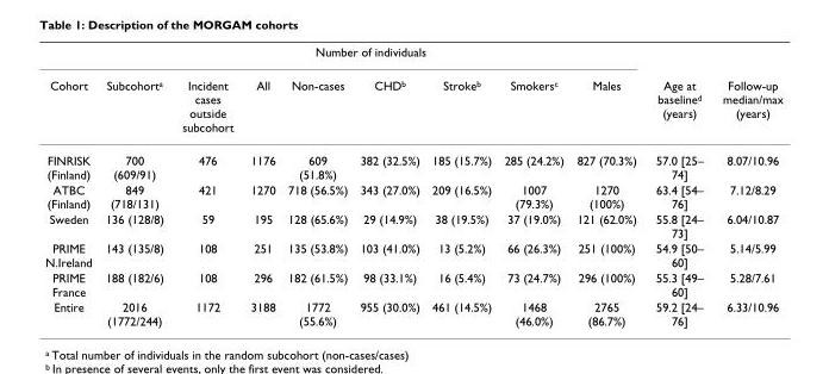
<table><thead><tr><td rowspan="2">Cohort</td><td colspan="8">Number of individuals</td><td rowspan="2">Age at baseline<sup>d</sup> (years)</td><td rowspan="2">Follow-up median/max (years)</td></tr><tr><td>Subcohort<sup>a</sup></td><td>Incident cases outside subcohort</td><td>All</td><td>Non-cases</td><td>CHD<sup>b</sup></td><td>Stroke<sup>b</sup></td><td>Smokers<sup>c</sup></td><td>Males</td></tr></thead><tbody><tr><td>FINRISK (Finland)</td><td>700 (609/91)</td><td>476</td><td>1176</td><td>609 (51.8%)</td><td>382 (32.5%)</td><td>185 (15.7%)</td><td>285 (24.2%)</td><td>827 (70.3%)</td><td>57.0 [25– 74]</td><td>8.07/10.96</td></tr><tr><td>ATBC (Finland)</td><td>849 (718/131)</td><td>421</td><td>1270</td><td>718 (56.5%)</td><td>343 (27.0%)</td><td>209 (16.5%)</td><td>1007 (79.3%)</td><td>1270 (100%)</td><td>63.4 [54– 76]</td><td>7.12/8.29</td></tr><tr><td>Sweden</td><td>136 (128/8)</td><td>59</td><td>195</td><td>128 (65.6%)</td><td>29 (14.9%)</td><td>38 (19.5%)</td><td>37 (19.0%)</td><td>121 (62.0%)</td><td>55.8 [24– 73]</td><td>6.04/10.87</td></tr><tr><td>PRIME N.Ireland</td><td>143 (135/8)</td><td>108</td><td>251</td><td>135 (53.8%)</td><td>103 (41.0%)</td><td>13 (5.2%)</td><td>66 (26.3%)</td><td>251 (100%)</td><td>54.9 [50– 60]</td><td>5.14/5.99</td></tr><tr><td>PRIME France</td><td>188 (182/6)</td><td>108</td><td>296</td><td>182 (61.5%)</td><td>98 (33.1%)</td><td>16 (5.4%)</td><td>73 (24.7%)</td><td>296 (100%)</td><td>55.3 [49– 60]</td><td>5.28/7.61</td></tr><tr><td>Entire</td><td>2016 (1772/244)</td><td>1172</td><td>3188</td><td>1772 (55.6%)</td><td>955 (30.0%)</td><td>461 (14.5%)</td><td>1468 (46.0%)</td><td>2765 (86.7%)</td><td>59.2 [24– 76]</td><td>6.33/10.96</td></tr></tbody></table>